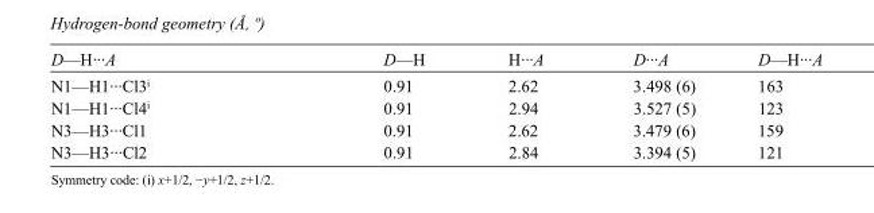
<table><tbody><tr><td>D—H···A</td><td>D—H</td><td>H···A</td><td>D···A</td><td>D—H···A</td></tr><tr><td>N1—H1···Cl3<sup>i</sup></td><td>0.91</td><td>2.62</td><td>3.498 (6)</td><td>163</td></tr><tr><td>N1—H1···Cl4<sup>i</sup></td><td>0.91</td><td>2.94</td><td>3.527 (5)</td><td>123</td></tr><tr><td>N3—H3···Cl1</td><td>0.91</td><td>2.62</td><td>3.479 (6)</td><td>159</td></tr><tr><td>N3—H3···Cl2</td><td>0.91</td><td>2.84</td><td>3.394 (5)</td><td>121</td></tr></tbody></table>